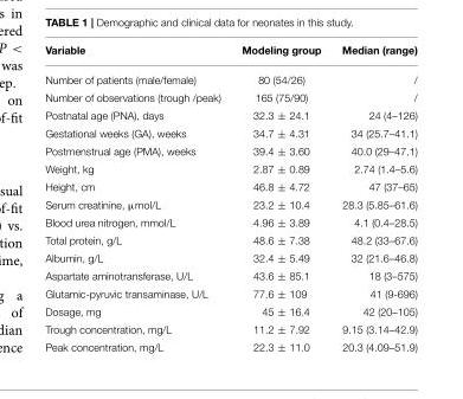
<table><thead><tr><td>Variable</td><td>Modeling group</td><td>Median (range)</td></tr></thead><tbody><tr><td>Number of patients (male/female)</td><td>80 (54/26)</td><td>/</td></tr><tr><td>Number of observations (trough /peak)</td><td>165 (75/90)</td><td>/</td></tr><tr><td>Postnatal age (PNA), days</td><td>32.3 ± 24.1</td><td>24 (4–126)</td></tr><tr><td>Gestational weeks (GA), weeks</td><td>34.7 ± 4.31</td><td>34 (25.7–41.1)</td></tr><tr><td>Postmenstrual age (PMA), weeks</td><td>39.4 ± 3.60</td><td>40.0 (29–47.1)</td></tr><tr><td>Weight, kg</td><td>2.87 ± 0.89</td><td>2.74 (1.4–5.6)</td></tr><tr><td>Height, cm</td><td>46.8 ± 4.72</td><td>47 (37–65)</td></tr><tr><td>Serum creatinine, µmol/L</td><td>23.2 ± 10.4</td><td>28.3 (5.85–61.6)</td></tr><tr><td>Blood urea nitrogen, mmol/L</td><td>4.96 ± 3.89</td><td>4.1 (0.4–28.5)</td></tr><tr><td>Total protein, g/L</td><td>48.6 ± 7.38</td><td>48.2 (33–67.6)</td></tr><tr><td>Albumin, g/L</td><td>32.4 ± 5.49</td><td>32 (21.6–46.8)</td></tr><tr><td>Aspartate aminotransferase, U/L</td><td>43.6 ± 85.1</td><td>18 (3–575)</td></tr><tr><td>Glutamic-pyruvic transaminase, U/L</td><td>77.6 ± 109</td><td>41 (9-696)</td></tr><tr><td>Dosage, mg</td><td>45 ± 16.4</td><td>42 (20–105)</td></tr><tr><td>Trough concentration, mg/L</td><td>11.2 ± 7.92</td><td>9.15 (3.14–42.9)</td></tr><tr><td>Peak concentration, mg/L</td><td>22.3 ± 11.0</td><td>20.3 (4.09–51.9)</td></tr></tbody></table>